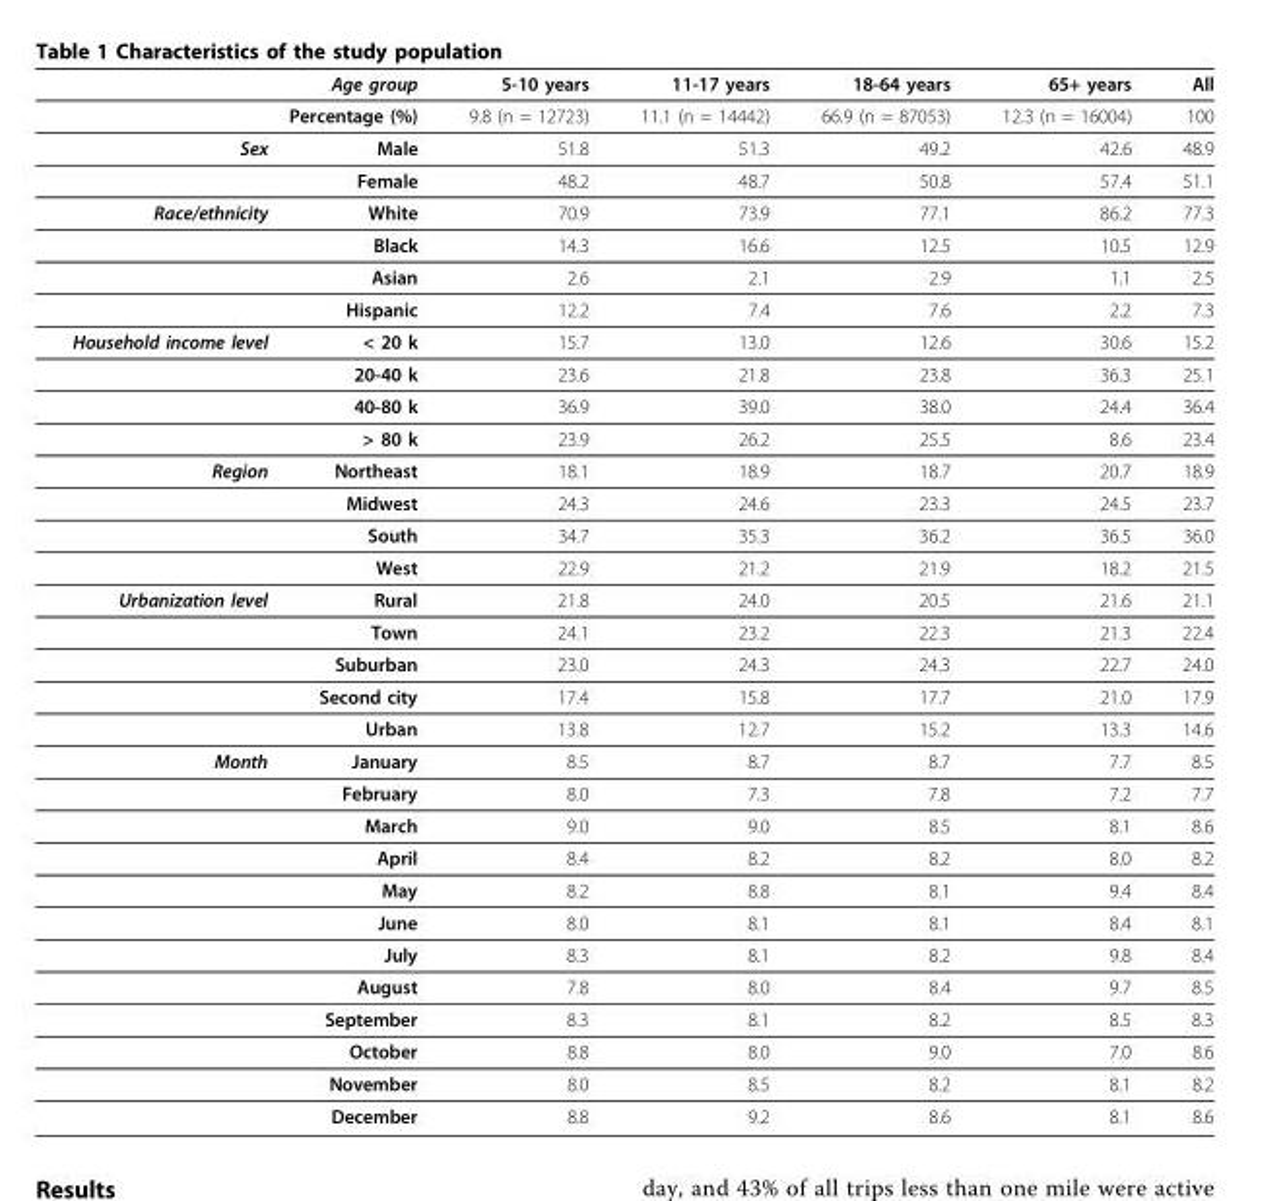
<table><thead><tr><td rowspan="2" colspan="2">Age group Percentage (%)</td><td rowspan="3">5-10 years 9.8 (n = 12723) 51.8</td><td rowspan="3">11-17 years 11.1 (n = 14442) 51.3</td><td rowspan="3">18-64 years 66.9 (n = 87053) 49.2</td><td rowspan="3">65+ years 12.3 (n = 16004) 42.6</td><td rowspan="3">All 100 48.9</td></tr><tr></tr><tr><td>Sex</td><td>Male</td></tr></thead><tbody><tr><td></td><td>Female</td><td>48.2</td><td>48.7</td><td>50.8</td><td>57.4</td><td>51.1</td></tr><tr><td rowspan="4">Race/ethnicity</td><td>White</td><td>70.9</td><td>73.9</td><td>77.1</td><td>86.2</td><td>77.3</td></tr><tr><td>Black</td><td>14.3</td><td>16.6</td><td>12.5</td><td>10.5</td><td>12.9</td></tr><tr><td>Asian</td><td>2.6</td><td>2.1</td><td>2.9</td><td>1.1</td><td>2.5</td></tr><tr><td>Hispanic</td><td>12.2</td><td>7.4</td><td>7.6</td><td>2.2</td><td>7.3</td></tr><tr><td rowspan="4">Household income level</td><td>&lt; 20 k</td><td>15.7</td><td>13.0</td><td>12.6</td><td>30.6</td><td>15.2</td></tr><tr><td>20-40 k</td><td>23.6</td><td>21.8</td><td>23.8</td><td>36.3</td><td>25.1</td></tr><tr><td>40-80 k</td><td>36.9</td><td>39.0</td><td>38.0</td><td>24.4</td><td>36.4</td></tr><tr><td>&gt; 80 k</td><td>23.9</td><td>26.2</td><td>25.5</td><td>8.6</td><td>23.4</td></tr><tr><td rowspan="4">Region</td><td>Northeast</td><td>18.1</td><td>18.9</td><td>18.7</td><td>20.7</td><td>18.9</td></tr><tr><td>Midwest</td><td>24.3</td><td>24.6</td><td>23.3</td><td>24.5</td><td>23.7</td></tr><tr><td>South</td><td>34.7</td><td>35.3</td><td>36.2</td><td>36.5</td><td>36.0</td></tr><tr><td>West</td><td>22.9</td><td>21.2</td><td>21.9</td><td>18.2</td><td>21.5</td></tr><tr><td rowspan="5">Urbanization level</td><td>Rural</td><td>21.8</td><td>24.0</td><td>20.5</td><td>21.6</td><td>21.1</td></tr><tr><td>Town</td><td>24.1</td><td>23.2</td><td>22.3</td><td>21.3</td><td>22.4</td></tr><tr><td>Suburban</td><td>23.0</td><td>24.3</td><td>24.3</td><td>22.7</td><td>24.0</td></tr><tr><td>Second city</td><td>17.4</td><td>15.8</td><td>17.7</td><td>21.0</td><td>17.9</td></tr><tr><td>Urban</td><td>13.8</td><td>12.7</td><td>15.2</td><td>13.3</td><td>14.6</td></tr><tr><td rowspan="12">Month</td><td>January</td><td>8.5</td><td>8.7</td><td>8.7</td><td>7.7</td><td>8.5</td></tr><tr><td>February</td><td>8.0</td><td>7.3</td><td>7.8</td><td>7.2</td><td>7.7</td></tr><tr><td>March</td><td>9.0</td><td>9.0</td><td>8.5</td><td>8.1</td><td>8.6</td></tr><tr><td>April</td><td>8.4</td><td>8.2</td><td>8.2</td><td>8.0</td><td>8.2</td></tr><tr><td>May</td><td>8.2</td><td>8.8</td><td>8.1</td><td>9.4</td><td>8.4</td></tr><tr><td>June</td><td>8.0</td><td>8.1</td><td>8.1</td><td>8.4</td><td>8.1</td></tr><tr><td>July</td><td>8.3</td><td>8.1</td><td>8.2</td><td>9.8</td><td>8.4</td></tr><tr><td>August</td><td>7.8</td><td>8.0</td><td>8.4</td><td>9.7</td><td>8.5</td></tr><tr><td>September</td><td>8.3</td><td>8.1</td><td>8.2</td><td>8.5</td><td>8.3</td></tr><tr><td>October</td><td>8.8</td><td>8.0</td><td>9.0</td><td>7.0</td><td>8.6</td></tr><tr><td>November</td><td>8.0</td><td>8.5</td><td>8.2</td><td>8.1</td><td>8.2</td></tr><tr><td>December</td><td>8.8</td><td>9.2</td><td>8.6</td><td>8.1</td><td>8.6</td></tr></tbody></table>